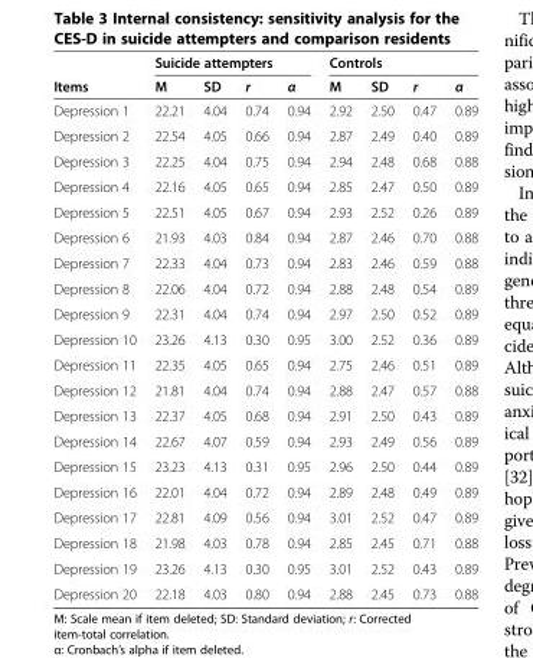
<table><thead><tr><td rowspan="2">Items</td><td colspan="4">Suicide attempters</td><td colspan="4">Controls</td></tr><tr><td>M</td><td>SD</td><td>r</td><td>α</td><td>M</td><td>SD</td><td>r</td><td>α</td></tr></thead><tbody><tr><td>Depression 1</td><td>22.21</td><td>4.04</td><td>0.74</td><td>0.94</td><td>2.92</td><td>2.50</td><td>0.47</td><td>0.89</td></tr><tr><td>Depression 2</td><td>22.54</td><td>4.05</td><td>0.66</td><td>0.94</td><td>2.87</td><td>2.49</td><td>0.40</td><td>0.89</td></tr><tr><td>Depression 3</td><td>22.25</td><td>4.04</td><td>0.75</td><td>0.94</td><td>2.94</td><td>2.48</td><td>0.68</td><td>0.88</td></tr><tr><td>Depression 4</td><td>22.16</td><td>4.05</td><td>0.65</td><td>0.94</td><td>2.85</td><td>2.47</td><td>0.50</td><td>0.89</td></tr><tr><td>Depression 5</td><td>22.51</td><td>4.05</td><td>0.67</td><td>0.94</td><td>2.93</td><td>2.52</td><td>0.26</td><td>0.89</td></tr><tr><td>Depression 6</td><td>21.93</td><td>4.03</td><td>0.84</td><td>0.94</td><td>2.87</td><td>2.46</td><td>0.70</td><td>0.88</td></tr><tr><td>Depression 7</td><td>22.33</td><td>4.04</td><td>0.73</td><td>0.94</td><td>2.83</td><td>2.46</td><td>0.59</td><td>0.88</td></tr><tr><td>Depression 8</td><td>22.06</td><td>4.04</td><td>0.72</td><td>0.94</td><td>2.88</td><td>2.48</td><td>0.54</td><td>0.89</td></tr><tr><td>Depression 9</td><td>22.31</td><td>4.04</td><td>0.74</td><td>0.94</td><td>2.97</td><td>2.50</td><td>0.52</td><td>0.89</td></tr><tr><td>Depression 10</td><td>23.26</td><td>4.13</td><td>0.30</td><td>0.95</td><td>3.00</td><td>2.52</td><td>0.36</td><td>0.89</td></tr><tr><td>Depression 11</td><td>22.35</td><td>4.05</td><td>0.65</td><td>0.94</td><td>2.75</td><td>2.46</td><td>0.51</td><td>0.89</td></tr><tr><td>Depression 12</td><td>21.81</td><td>4.04</td><td>0.74</td><td>0.94</td><td>2.88</td><td>2.47</td><td>0.57</td><td>0.88</td></tr><tr><td>Depression 13</td><td>22.37</td><td>4.05</td><td>0.68</td><td>0.94</td><td>2.91</td><td>2.50</td><td>0.43</td><td>0.89</td></tr><tr><td>Depression 14</td><td>22.67</td><td>4.07</td><td>0.59</td><td>0.94</td><td>2.93</td><td>2.49</td><td>0.56</td><td>0.89</td></tr><tr><td>Depression 15</td><td>23.23</td><td>4.13</td><td>0.31</td><td>0.95</td><td>2.96</td><td>2.50</td><td>0.44</td><td>0.89</td></tr><tr><td>Depression 16</td><td>22.01</td><td>4.04</td><td>0.72</td><td>0.94</td><td>2.89</td><td>2.48</td><td>0.49</td><td>0.89</td></tr><tr><td>Depression 17</td><td>22.81</td><td>4.09</td><td>0.56</td><td>0.94</td><td>3.01</td><td>2.52</td><td>0.47</td><td>0.89</td></tr><tr><td>Depression 18</td><td>21.98</td><td>4.03</td><td>0.78</td><td>0.94</td><td>2.85</td><td>2.45</td><td>0.71</td><td>0.88</td></tr><tr><td>Depression 19</td><td>23.26</td><td>4.13</td><td>0.30</td><td>0.95</td><td>3.01</td><td>2.52</td><td>0.43</td><td>0.89</td></tr><tr><td>Depression 20</td><td>22.18</td><td>4.03</td><td>0.80</td><td>0.94</td><td>2.88</td><td>2.45</td><td>0.73</td><td>0.88</td></tr></tbody></table>